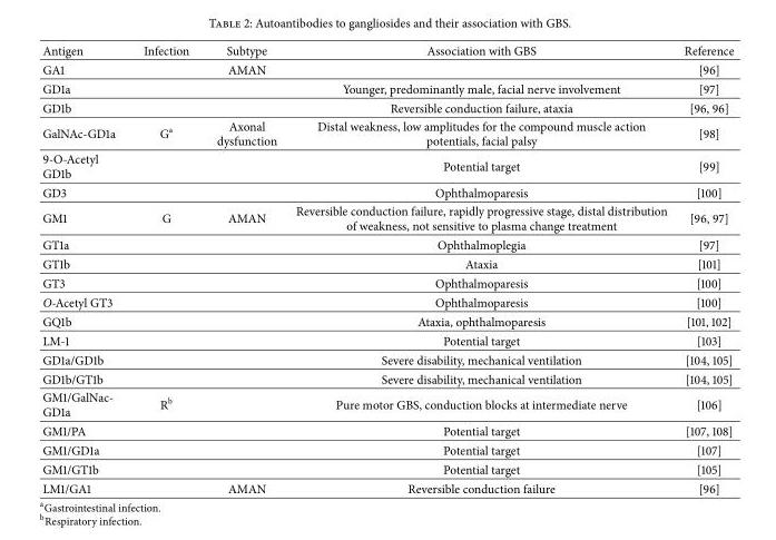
<table><thead><tr><td>Antigen</td><td>Infection</td><td>Subtype</td><td>Association with GBS</td><td>Reference</td></tr></thead><tbody><tr><td>GA1</td><td></td><td>AMAN</td><td></td><td>[96]</td></tr><tr><td>GD1a</td><td></td><td></td><td>Younger, predominantly male, facial nerve involvement</td><td>[97]</td></tr><tr><td>GD1b</td><td></td><td></td><td>Reversible conduction failure, ataxia</td><td>[96, 96]</td></tr><tr><td>GalNAc-GD1a</td><td>G<sup>a</sup></td><td>Axonal dysfunction</td><td>Distal weakness, low amplitudes for the compound muscle action potentials, facial palsy</td><td>[98]</td></tr><tr><td>9-O-Acetyl GD1b</td><td></td><td></td><td>Potential target</td><td>[99]</td></tr><tr><td>GD3</td><td></td><td></td><td>Ophthalmoparesis</td><td>[100]</td></tr><tr><td>GM1</td><td>G</td><td>AMAN</td><td>Reversible conduction failure, rapidly progressive stage, distal distribution of weakness, not sensitive to plasma change treatment</td><td>[96, 97]</td></tr><tr><td>GT1a</td><td></td><td></td><td>Ophthalmoplegia</td><td>[97]</td></tr><tr><td>GT1b</td><td></td><td></td><td>Ataxia</td><td>[101]</td></tr><tr><td>GT3</td><td></td><td></td><td>Ophthalmoparesis</td><td>[100]</td></tr><tr><td>O-Acetyl GT3</td><td></td><td></td><td>Ophthalmoparesis</td><td>[100]</td></tr><tr><td>GQ1b</td><td></td><td></td><td>Ataxia, ophthalmoparesis</td><td>[101, 102]</td></tr><tr><td>LM-1</td><td></td><td></td><td>Potential target</td><td>[103]</td></tr><tr><td>GD1a/GD1b</td><td></td><td></td><td>Severe disability, mechanical ventilation</td><td>[104, 105]</td></tr><tr><td>GD1b/GT1b</td><td></td><td></td><td>Severe disability, mechanical ventilation</td><td>[104, 105]</td></tr><tr><td>GM1/GalNac- GD1a</td><td>R<sup>b</sup></td><td></td><td>Pure motor GBS, conduction blocks at intermediate nerve</td><td>[106]</td></tr><tr><td>GM1/PA</td><td></td><td></td><td>Potential target</td><td>[107, 108]</td></tr><tr><td>GM1/GD1a</td><td></td><td></td><td>Potential target</td><td>[107]</td></tr><tr><td>GM1/GT1b</td><td></td><td></td><td>Potential target</td><td>[105]</td></tr><tr><td>LM1/GA1</td><td></td><td>AMAN</td><td>Reversible conduction failure</td><td>[96]</td></tr></tbody></table>